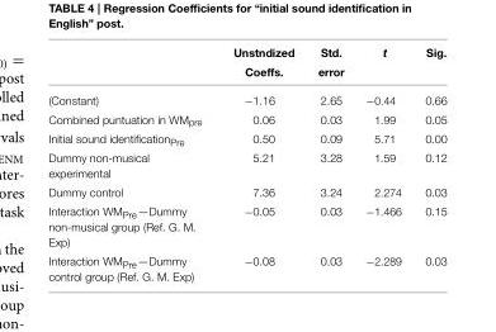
<table><thead><tr><td></td><td>Unstndized Coeffs.</td><td>Std. error</td><td>t</td><td>Sig.</td></tr></thead><tbody><tr><td>(Constant)</td><td>−1.16</td><td>2.65</td><td>−0.44</td><td>0.66</td></tr><tr><td>Combined puntuation in WM<sub>pre</sub></td><td>0.06</td><td>0.03</td><td>1.99</td><td>0.05</td></tr><tr><td>Initial sound identification<sub>Pre</sub></td><td>0.50</td><td>0.09</td><td>5.71</td><td>0.00</td></tr><tr><td>Dummy non-musical experimental</td><td>5.21</td><td>3.28</td><td>1.59</td><td>0.12</td></tr><tr><td>Dummy control</td><td>7.36</td><td>3.24</td><td>2.274</td><td>0.03</td></tr><tr><td>Interaction WM<sub>Pre</sub>—Dummy non-musical group (Ref. G. M. Exp)</td><td>−0.05</td><td>0.03</td><td>−1.466</td><td>0.15</td></tr><tr><td>Interaction WM<sub>Pre</sub>—Dummy control group (Ref. G. M. Exp)</td><td>−0.08</td><td>0.03</td><td>−2.289</td><td>0.03</td></tr></tbody></table>